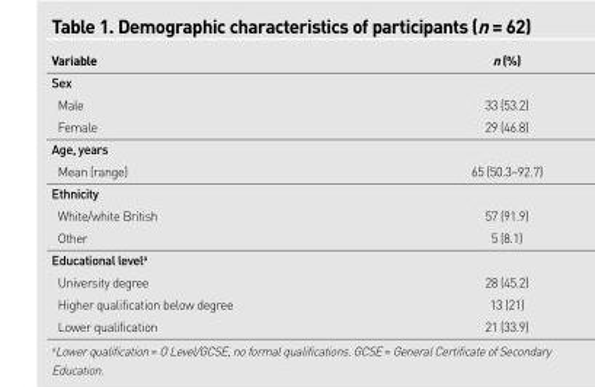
<table><thead><tr><td>Variable</td><td>n (%)</td></tr></thead><tbody><tr><td colspan="2">Sex</td></tr><tr><td>Male</td><td>33 (53.2)</td></tr><tr><td>Female</td><td>29 (46.8)</td></tr><tr><td colspan="2">Age, years</td></tr><tr><td>Mean (range)</td><td>65 (50.3–92.7)</td></tr><tr><td colspan="2">Ethnicity</td></tr><tr><td>White/white British</td><td>57 (91.9)</td></tr><tr><td>Other</td><td>5 (8.1)</td></tr><tr><td colspan="2">Educational level<sup>a</sup></td></tr><tr><td>University degree</td><td>28 (45.2)</td></tr><tr><td>Higher qualification below degree</td><td>13 (21)</td></tr><tr><td>Lower qualification</td><td>21 (33.9)</td></tr></tbody></table>